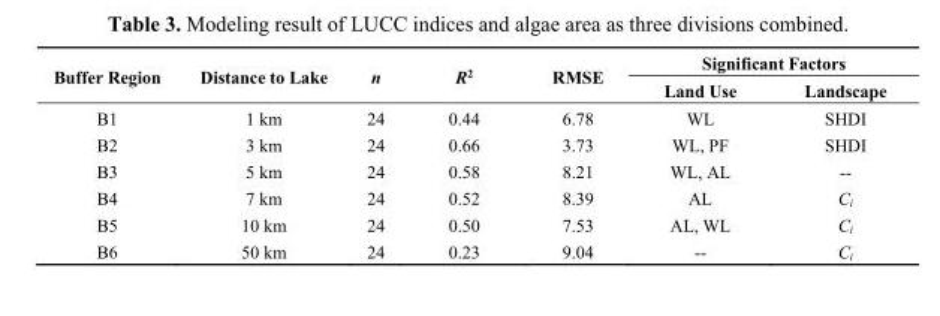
<table><thead><tr><td rowspan="2">Buffer Region</td><td rowspan="2">Distance to Lake</td><td rowspan="2">n</td><td rowspan="2">R<sup>2</sup></td><td rowspan="2">RMSE</td><td colspan="2">Significant Factors</td></tr><tr><td>Land Use</td><td>Landscape</td></tr></thead><tbody><tr><td>B1</td><td>1 km</td><td>24</td><td>0.44</td><td>6.78</td><td>WL</td><td>SHDI</td></tr><tr><td>B2</td><td>3 km</td><td>24</td><td>0.66</td><td>3.73</td><td>WL, PF</td><td>SHDI</td></tr><tr><td>B3</td><td>5 km</td><td>24</td><td>0.58</td><td>8.21</td><td>WL, AL</td><td>--</td></tr><tr><td>B4</td><td>7 km</td><td>24</td><td>0.52</td><td>8.39</td><td>AL</td><td>C<sub>i</sub></td></tr><tr><td>B5</td><td>10 km</td><td>24</td><td>0.50</td><td>7.53</td><td>AL, WL</td><td>C<sub>i</sub></td></tr><tr><td>B6</td><td>50 km</td><td>24</td><td>0.23</td><td>9.04</td><td>--</td><td>C<sub>i</sub></td></tr></tbody></table>